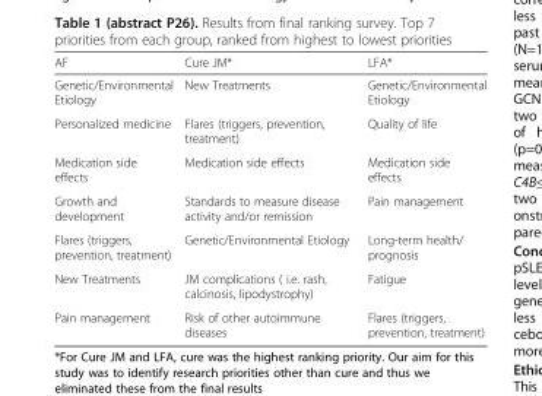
<table><thead><tr><td>AF</td><td>Cure JM*</td><td>LFA*</td></tr></thead><tbody><tr><td>Genetic/Environmental Etiology</td><td>New Treatments</td><td>Genetic/Environmental Etiology</td></tr><tr><td>Personalized medicine</td><td>Flares (triggers, prevention, treatment)</td><td>Quality of life</td></tr><tr><td>Medication side effects</td><td>Medication side effects</td><td>Medication side effects</td></tr><tr><td>Growth and development</td><td>Standards to measure disease activity and/or remission</td><td>Pain management</td></tr><tr><td>Flares (triggers, prevention, treatment)</td><td>Genetic/Environmental Etiology</td><td>Long-term health/ prognosis</td></tr><tr><td>New Treatments</td><td>JM complications ( i.e. rash, calcinosis, lipodystrophy)</td><td>Fatigue</td></tr><tr><td>Pain management</td><td>Risk of other autoimmune diseases</td><td>Flares (triggers, prevention, treatment)</td></tr></tbody></table>